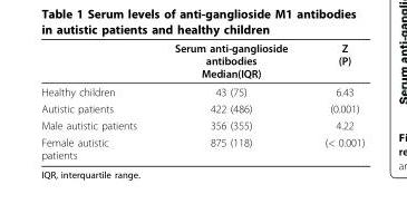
<table><thead><tr><td></td><td>Serum anti-ganglioside antibodies Median(IQR)</td><td>Z (P)</td></tr></thead><tbody><tr><td>Healthy children</td><td>43 (75)</td><td>6.43</td></tr><tr><td>Autistic patients</td><td>422 (486)</td><td>(0.001)</td></tr><tr><td>Male autistic patients</td><td>356 (355)</td><td>4.22</td></tr><tr><td>Female autistic patients</td><td>875 (118)</td><td>(&lt; 0.001)</td></tr></tbody></table>